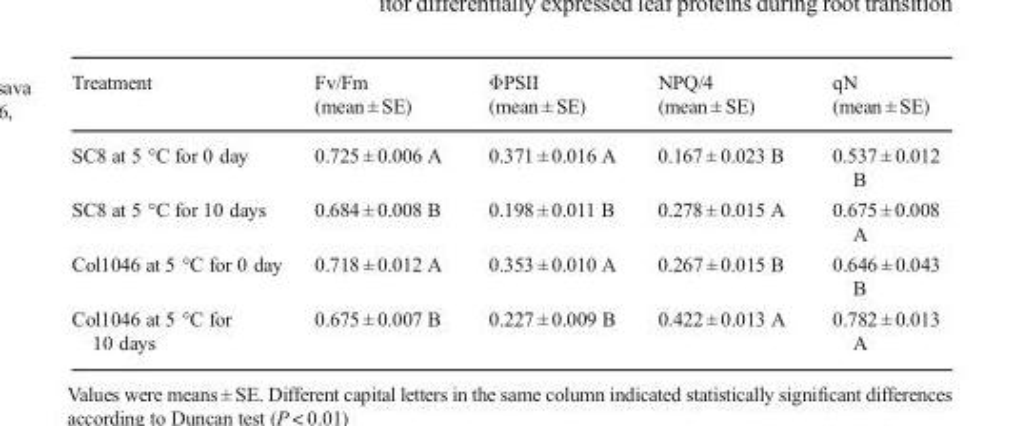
<table><thead><tr><td>Treatment</td><td>Fv/Fm (mean ± SE)</td><td>ΦPSII (mean ± SE)</td><td>NPQ/4 (mean ± SE)</td><td>qN (mean ± SE)</td></tr></thead><tbody><tr><td>SC8 at 5 °C for 0 day</td><td>0.725 ± 0.006 A</td><td>0.371 ± 0.016 A</td><td>0.167 ± 0.023 B</td><td>0.537 ± 0.012 B</td></tr><tr><td>SC8 at 5 °C for 10 days</td><td>0.684 ± 0.008 B</td><td>0.198 ± 0.011 B</td><td>0.278 ± 0.015 A</td><td>0.675 ± 0.008 A</td></tr><tr><td>Col1046 at 5 °C for 0 day</td><td>0.718 ± 0.012 A</td><td>0.353 ± 0.010 A</td><td>0.267 ± 0.015 B</td><td>0.646 ± 0.043 B</td></tr><tr><td>Col1046 at 5 °C for 10 days</td><td>0.675 ± 0.007 B</td><td>0.227 ± 0.009 B</td><td>0.422 ± 0.013 A</td><td>0.782 ± 0.013 A</td></tr></tbody></table>